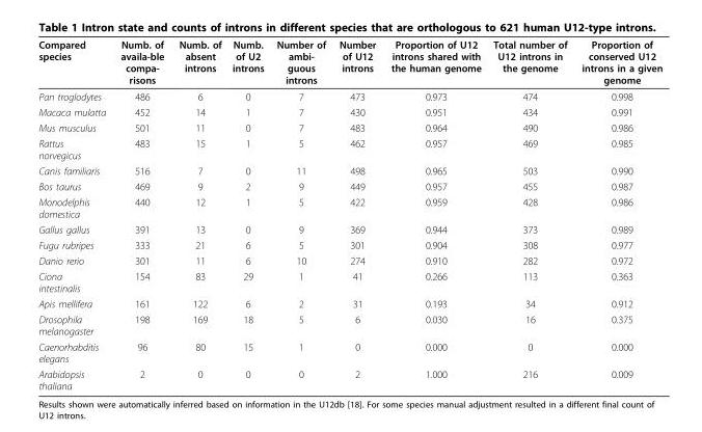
<table><thead><tr><td>Compared species</td><td>Numb. of availa-ble compa- risons</td><td>Numb. of absent introns</td><td>Numb. of U2 introns</td><td>Number of ambi- guous introns</td><td>Number of U12 introns</td><td>Proportion of U12 introns shared with the human genome</td><td>Total number of U12 introns in the genome</td><td>Proportion of conserved U12 introns in a given genome</td></tr></thead><tbody><tr><td>Pan troglodytes</td><td>486</td><td>6</td><td>0</td><td>7</td><td>473</td><td>0.973</td><td>474</td><td>0.998</td></tr><tr><td>Macaca mulatta</td><td>452</td><td>14</td><td>1</td><td>7</td><td>430</td><td>0.951</td><td>434</td><td>0.991</td></tr><tr><td>Mus musculus</td><td>501</td><td>11</td><td>0</td><td>7</td><td>483</td><td>0.964</td><td>490</td><td>0.986</td></tr><tr><td>Rattus norvegicus</td><td>483</td><td>15</td><td>1</td><td>5</td><td>462</td><td>0.957</td><td>469</td><td>0.985</td></tr><tr><td>Canis familiaris</td><td>516</td><td>7</td><td>0</td><td>11</td><td>498</td><td>0.965</td><td>503</td><td>0.990</td></tr><tr><td>Bos taurus</td><td>469</td><td>9</td><td>2</td><td>9</td><td>449</td><td>0.957</td><td>455</td><td>0.987</td></tr><tr><td>Monodelphis domestica</td><td>440</td><td>12</td><td>1</td><td>5</td><td>422</td><td>0.959</td><td>428</td><td>0.986</td></tr><tr><td>Gallus gallus</td><td>391</td><td>13</td><td>0</td><td>9</td><td>369</td><td>0.944</td><td>373</td><td>0.989</td></tr><tr><td>Fugu rubripes</td><td>333</td><td>21</td><td>6</td><td>5</td><td>301</td><td>0.904</td><td>308</td><td>0.977</td></tr><tr><td>Danio rerio</td><td>301</td><td>11</td><td>6</td><td>10</td><td>274</td><td>0.910</td><td>282</td><td>0.972</td></tr><tr><td>Ciona intestinalis</td><td>154</td><td>83</td><td>29</td><td>1</td><td>41</td><td>0.266</td><td>113</td><td>0.363</td></tr><tr><td>Apis mellifera</td><td>161</td><td>122</td><td>6</td><td>2</td><td>31</td><td>0.193</td><td>34</td><td>0.912</td></tr><tr><td>Drosophila melanogaster</td><td>198</td><td>169</td><td>18</td><td>5</td><td>6</td><td>0.030</td><td>16</td><td>0.375</td></tr><tr><td>Caenorhabditis elegans</td><td>96</td><td>80</td><td>15</td><td>1</td><td>0</td><td>0.000</td><td>0</td><td>0.000</td></tr><tr><td>Arabidopsis thaliana</td><td>2</td><td>0</td><td>0</td><td>0</td><td>2</td><td>1.000</td><td>216</td><td>0.009</td></tr></tbody></table>